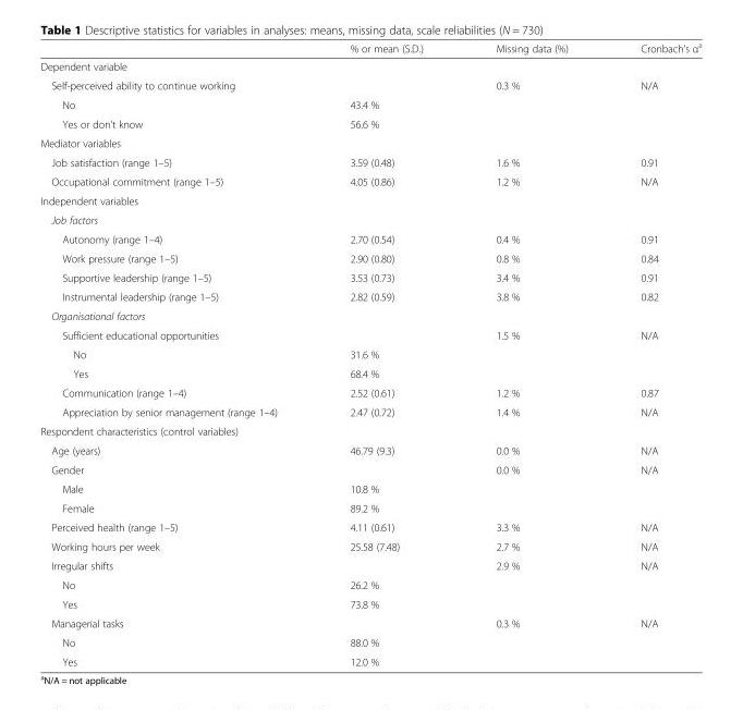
<table><thead><tr><td></td><td>% or mean (S.D.)</td><td>Missing data (%)</td><td>Cronbach’s α<sup>a</sup></td></tr></thead><tbody><tr><td colspan="4">Dependent variable</td></tr><tr><td>Self-perceived ability to continue working</td><td></td><td>0.3 %</td><td>N/A</td></tr><tr><td>No</td><td>43.4 %</td><td></td><td></td></tr><tr><td>Yes or don’t know</td><td>56.6 %</td><td></td><td></td></tr><tr><td colspan="4">Mediator variables</td></tr><tr><td>Job satisfaction (range 1–5)</td><td>3.59 (0.48)</td><td>1.6 %</td><td>0.91</td></tr><tr><td>Occupational commitment (range 1–5)</td><td>4.05 (0.86)</td><td>1.2 %</td><td>N/A</td></tr><tr><td colspan="4">Independent variables</td></tr><tr><td colspan="4">Job factors</td></tr><tr><td>Autonomy (range 1–4)</td><td>2.70 (0.54)</td><td>0.4 %</td><td>0.91</td></tr><tr><td>Work pressure (range 1–5)</td><td>2.90 (0.80)</td><td>0.8 %</td><td>0.84</td></tr><tr><td>Supportive leadership (range 1–5)</td><td>3.53 (0.73)</td><td>3.4 %</td><td>0.91</td></tr><tr><td>Instrumental leadership (range 1–5)</td><td>2.82 (0.59)</td><td>3.8 %</td><td>0.82</td></tr><tr><td colspan="4">Organisational factors</td></tr><tr><td>Sufficient educational opportunities</td><td></td><td>1.5 %</td><td>N/A</td></tr><tr><td>No</td><td>31.6 %</td><td></td><td></td></tr><tr><td>Yes</td><td>68.4 %</td><td></td><td></td></tr><tr><td>Communication (range 1–4)</td><td>2.52 (0.61)</td><td>1.2 %</td><td>0.87</td></tr><tr><td>Appreciation by senior management (range 1–4)</td><td>2.47 (0.72)</td><td>1.4 %</td><td>N/A</td></tr><tr><td colspan="4">Respondent characteristics (control variables)</td></tr><tr><td>Age (years)</td><td>46.79 (9.3)</td><td>0.0 %</td><td>N/A</td></tr><tr><td>Gender</td><td></td><td>0.0 %</td><td>N/A</td></tr><tr><td>Male</td><td>10.8 %</td><td></td><td></td></tr><tr><td>Female</td><td>89.2 %</td><td></td><td></td></tr><tr><td>Perceived health (range 1–5)</td><td>4.11 (0.61)</td><td>3.3 %</td><td>N/A</td></tr><tr><td>Working hours per week</td><td>25.58 (7.48)</td><td>2.7 %</td><td>N/A</td></tr><tr><td>Irregular shifts</td><td></td><td>2.9 %</td><td>N/A</td></tr><tr><td>No</td><td>26.2 %</td><td></td><td></td></tr><tr><td>Yes</td><td>73.8 %</td><td></td><td></td></tr><tr><td>Managerial tasks</td><td></td><td>0.3 %</td><td>N/A</td></tr><tr><td>No</td><td>88.0 %</td><td></td><td></td></tr><tr><td>Yes</td><td>12.0 %</td><td></td><td></td></tr></tbody></table>